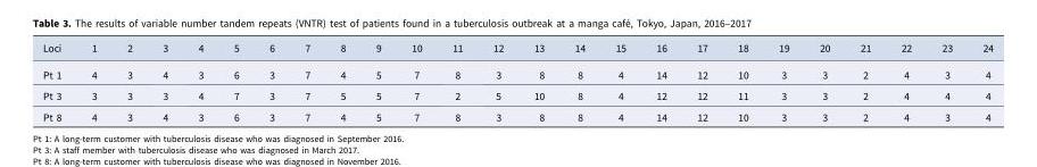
<table><thead><tr><td>Loci</td><td>1</td><td>2</td><td>3</td><td>4</td><td>5</td><td>6</td><td>7</td><td>8</td><td>9</td><td>10</td><td>11</td><td>12</td><td>13</td><td>14</td><td>15</td><td>16</td><td>17</td><td>18</td><td>19</td><td>20</td><td>21</td><td>22</td><td>23</td><td>24</td></tr></thead><tbody><tr><td>Pt 1</td><td>4</td><td>3</td><td>4</td><td>3</td><td>6</td><td>3</td><td>7</td><td>4</td><td>5</td><td>7</td><td>8</td><td>3</td><td>8</td><td>8</td><td>4</td><td>14</td><td>12</td><td>10</td><td>3</td><td>3</td><td>2</td><td>4</td><td>3</td><td>4</td></tr><tr><td>Pt 3</td><td>3</td><td>3</td><td>3</td><td>4</td><td>7</td><td>3</td><td>7</td><td>5</td><td>5</td><td>7</td><td>2</td><td>5</td><td>10</td><td>8</td><td>4</td><td>12</td><td>12</td><td>11</td><td>3</td><td>3</td><td>2</td><td>4</td><td>4</td><td>4</td></tr><tr><td>Pt 8</td><td>4</td><td>3</td><td>4</td><td>3</td><td>6</td><td>3</td><td>7</td><td>4</td><td>5</td><td>7</td><td>8</td><td>3</td><td>8</td><td>8</td><td>4</td><td>14</td><td>12</td><td>10</td><td>3</td><td>3</td><td>2</td><td>4</td><td>3</td><td>4</td></tr></tbody></table>